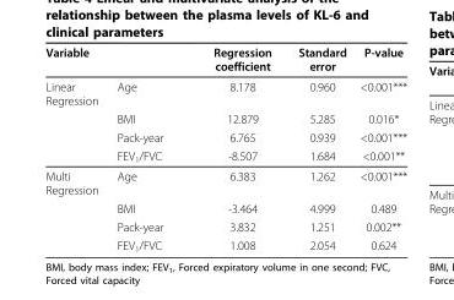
<table><thead><tr><td>Variable</td><td></td><td>Regression coefficient</td><td>Standard error</td><td>P-value</td></tr></thead><tbody><tr><td rowspan="4">Linear Regression</td><td>Age</td><td>8.178</td><td>0.960</td><td>&lt;0.001***</td></tr><tr><td>BMI</td><td>12.879</td><td>5.285</td><td>0.016*</td></tr><tr><td>Pack-year</td><td>6.765</td><td>0.939</td><td>&lt;0.001***</td></tr><tr><td>FEV<sub>1</sub>/FVC</td><td>-8.507</td><td>1.684</td><td>&lt;0.001**</td></tr><tr><td rowspan="4">Multi Regression</td><td>Age</td><td>6.383</td><td>1.262</td><td>&lt;0.001***</td></tr><tr><td>BMI</td><td>-3.464</td><td>4.999</td><td>0.489</td></tr><tr><td>Pack-year</td><td>3.832</td><td>1.251</td><td>0.002**</td></tr><tr><td>FEV<sub>1</sub>/FVC</td><td>1.008</td><td>2.054</td><td>0.624</td></tr></tbody></table>